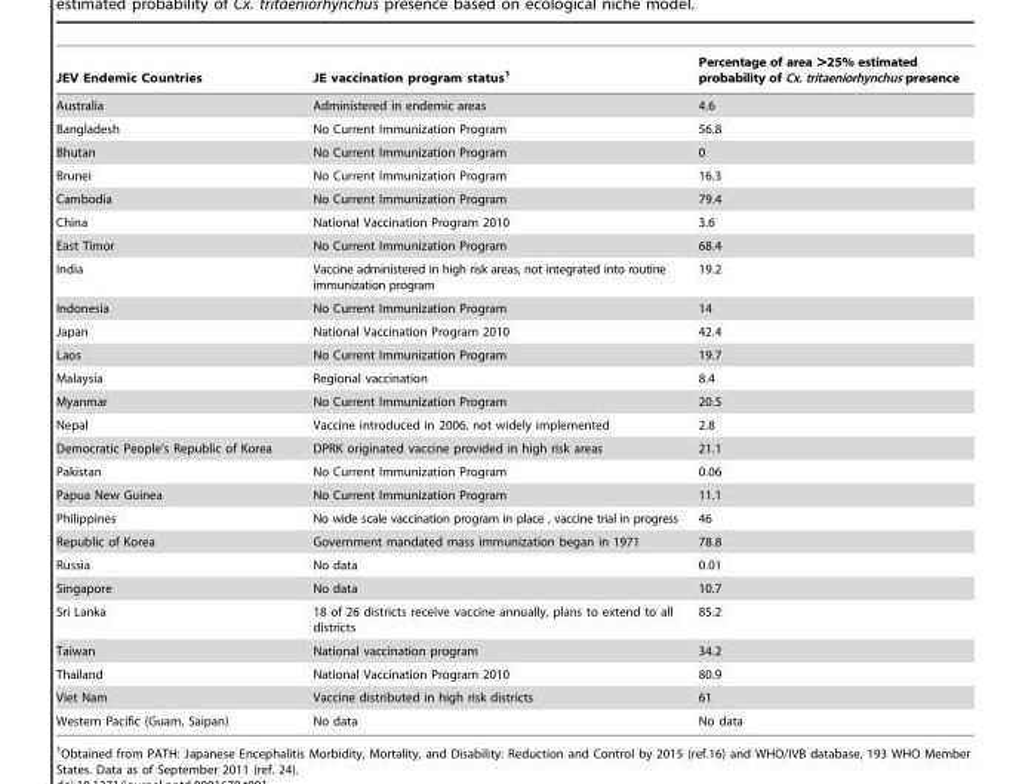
<table><thead><tr><td>JEV Endemic Countries</td><td>JE vaccination program status<sup>1</sup></td><td>Percentage of area &gt;25% estimated probability of Cx. tritaeniorhynchus presence</td></tr></thead><tbody><tr><td>Australia</td><td>Administered in endemic areas</td><td>4.6</td></tr><tr><td>Bangladesh</td><td>No Current Immunization Program</td><td>56.8</td></tr><tr><td>Bhutan</td><td>No Current Immunization Program</td><td>0</td></tr><tr><td>Brunei</td><td>No Current Immunization Program</td><td>16.3</td></tr><tr><td>Cambodia</td><td>No Current Immunization Program</td><td>79.4</td></tr><tr><td>China</td><td>National Vaccination Program 2010</td><td>3.6</td></tr><tr><td>East Timor</td><td>No Current Immunization Program</td><td>68.4</td></tr><tr><td>India</td><td>Vaccine administered in high risk areas, not integrated into routine immunization program</td><td>19.2</td></tr><tr><td>Indonesia</td><td>No Current Immunization Program</td><td>14</td></tr><tr><td>Japan</td><td>National Vaccination Program 2010</td><td>42.4</td></tr><tr><td>Laos</td><td>No Current Immunization Program</td><td>19.7</td></tr><tr><td>Malaysia</td><td>Regional vaccination</td><td>8.4</td></tr><tr><td>Myanmar</td><td>No Current Immunization Program</td><td>20.5</td></tr><tr><td>Nepal</td><td>Vaccine introduced in 2006, not widely implemented</td><td>2.8</td></tr><tr><td>Democratic People’s Republic of Korea</td><td>DPRK originated vaccine provided in high risk areas</td><td>21.1</td></tr><tr><td>Pakistan</td><td>No Current Immunization Program</td><td>0.06</td></tr><tr><td>Papua New Guinea</td><td>No Current Immunization Program</td><td>11.1</td></tr><tr><td>Philippines</td><td>No wide scale vaccination program in place , vaccine trial in progress</td><td>46</td></tr><tr><td>Republic of Korea</td><td>Government mandated mass immunization began in 1971</td><td>78.8</td></tr><tr><td>Russia</td><td>No data</td><td>0.01</td></tr><tr><td>Singapore</td><td>No data</td><td>10.7</td></tr><tr><td>Sri Lanka</td><td>18 of 26 districts receive vaccine annually, plans to extend to all districts</td><td>85.2</td></tr><tr><td>Taiwan</td><td>National vaccination program</td><td>34.2</td></tr><tr><td>Thailand</td><td>National Vaccination Program 2010</td><td>80.9</td></tr><tr><td>Viet Nam</td><td>Vaccine distributed in high risk districts</td><td>61</td></tr><tr><td>Western Pacific (Guam, Saipan)</td><td>No data</td><td>No data</td></tr></tbody></table>